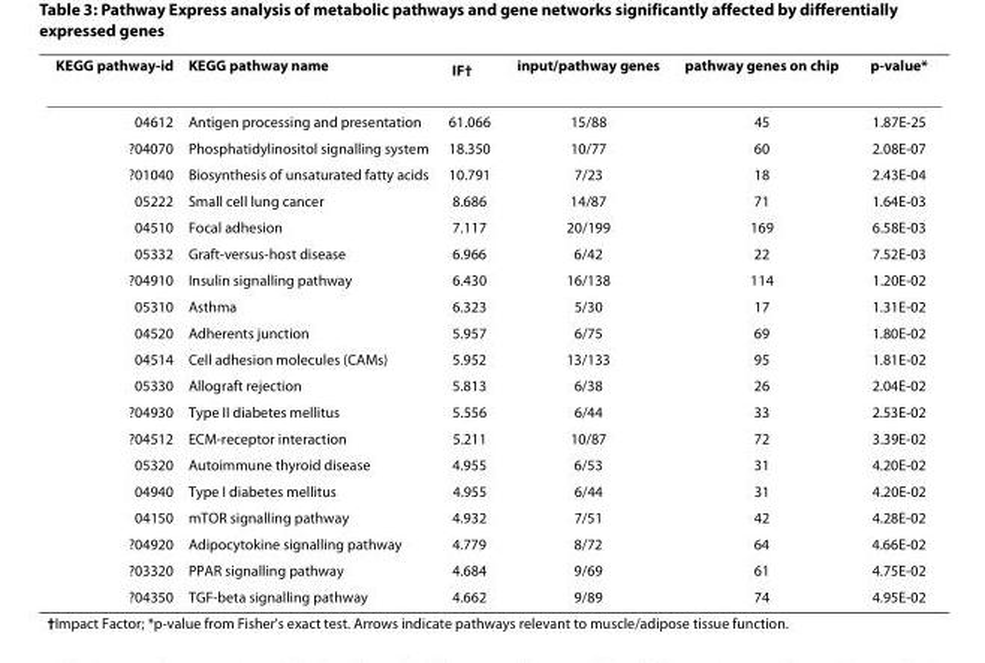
<table><thead><tr><td>KEGG pathway-id</td><td>KEGG pathway name</td><td>IF<sup>†</sup></td><td>input/pathway genes</td><td>pathway genes on chip</td><td>p-value*</td></tr></thead><tbody><tr><td>04612</td><td>Antigen processing and presentation</td><td>61.066</td><td>15/88</td><td>45</td><td>1.87E-25</td></tr><tr><td>►04070</td><td>Phosphatidylinositol signalling system</td><td>18.350</td><td>10/77</td><td>60</td><td>2.08E-07</td></tr><tr><td>►01040</td><td>Biosynthesis of unsaturated fatty acids</td><td>10.791</td><td>7/23</td><td>18</td><td>2.43E-04</td></tr><tr><td>05222</td><td>Small cell lung cancer</td><td>8.686</td><td>14/87</td><td>71</td><td>1.64E-03</td></tr><tr><td>04510</td><td>Focal adhesion</td><td>7.117</td><td>20/199</td><td>169</td><td>6.58E-03</td></tr><tr><td>05332</td><td>Graft-versus-host disease</td><td>6.966</td><td>6/42</td><td>22</td><td>7.52E-03</td></tr><tr><td>►04910</td><td>Insulin signalling pathway</td><td>6.430</td><td>16/138</td><td>114</td><td>1.20E-02</td></tr><tr><td>05310</td><td>Asthma</td><td>6.323</td><td>5/30</td><td>17</td><td>1.31E-02</td></tr><tr><td>04520</td><td>Adherents junction</td><td>5.957</td><td>6/75</td><td>69</td><td>1.80E-02</td></tr><tr><td>04514</td><td>Cell adhesion molecules (CAMs)</td><td>5.952</td><td>13/133</td><td>95</td><td>1.81E-02</td></tr><tr><td>05330</td><td>Allograft rejection</td><td>5.813</td><td>6/38</td><td>26</td><td>2.04E-02</td></tr><tr><td>►04930</td><td>Type II diabetes mellitus</td><td>5.556</td><td>6/44</td><td>33</td><td>2.53E-02</td></tr><tr><td>►04512</td><td>ECM-receptor interaction</td><td>5.211</td><td>10/87</td><td>72</td><td>3.39E-02</td></tr><tr><td>05320</td><td>Autoimmune thyroid disease</td><td>4.955</td><td>6/53</td><td>31</td><td>4.20E-02</td></tr><tr><td>04940</td><td>Type I diabetes mellitus</td><td>4.955</td><td>6/44</td><td>31</td><td>4.20E-02</td></tr><tr><td>04150</td><td>mTOR signalling pathway</td><td>4.932</td><td>7/51</td><td>42</td><td>4.28E-02</td></tr><tr><td>►04920</td><td>Adipocytokine signalling pathway</td><td>4.779</td><td>8/72</td><td>64</td><td>4.66E-02</td></tr><tr><td>►03320</td><td>PPAR signalling pathway</td><td>4.684</td><td>9/69</td><td>61</td><td>4.75E-02</td></tr><tr><td>►04350</td><td>TGF-beta signalling pathway</td><td>4.662</td><td>9/89</td><td>74</td><td>4.95E-02</td></tr></tbody></table>